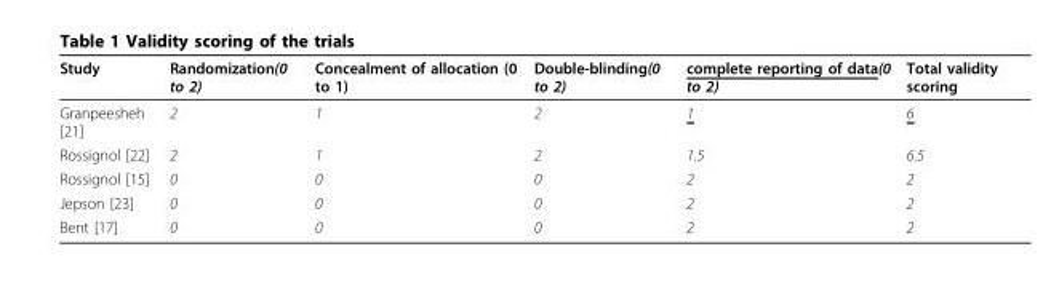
<table><thead><tr><td>Study</td><td>Randomization(0 to 2)</td><td>Concealment of allocation (0 to 1)</td><td>Double-blinding(0 to 2)</td><td>complete reporting of data(0 to 2)</td><td>Total validity scoring</td></tr></thead><tbody><tr><td>Granpeesheh [21]</td><td>2</td><td>1</td><td>2</td><td>1</td><td>6</td></tr><tr><td>Rossignol [22]</td><td>2</td><td>1</td><td>2</td><td>1.5</td><td>6.5</td></tr><tr><td>Rossignol [15]</td><td>0</td><td>0</td><td>0</td><td>2</td><td>2</td></tr><tr><td>Jepson [23]</td><td>0</td><td>0</td><td>0</td><td>2</td><td>2</td></tr><tr><td>Bent [17]</td><td>0</td><td>0</td><td>0</td><td>2</td><td>2</td></tr></tbody></table>